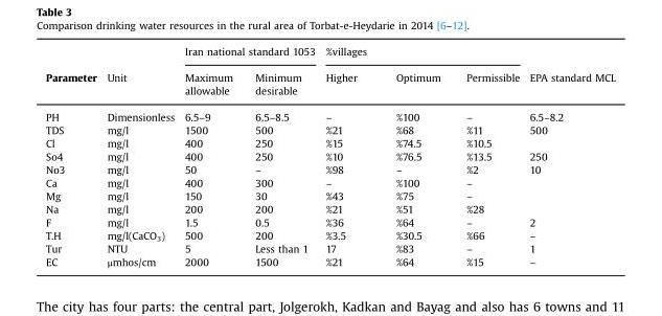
<table><thead><tr><td rowspan="2">Parameter</td><td rowspan="2">Unit</td><td colspan="2">Iran national standard 1053</td><td colspan="3">%villages</td><td rowspan="2">EPA standard MCL</td></tr><tr><td>Maximum allowable</td><td>Minimum desirable</td><td>Higher</td><td>Optimum</td><td>Permissible</td></tr></thead><tbody><tr><td>PH</td><td>Dimensionless</td><td>6.5–9</td><td>6.5–8.5</td><td>–</td><td>%100</td><td>–</td><td>6.5–8.2</td></tr><tr><td>TDS</td><td>mg/l</td><td>1500</td><td>500</td><td>%21</td><td>%68</td><td>%11</td><td>500</td></tr><tr><td>Cl</td><td>mg/l</td><td>400</td><td>250</td><td>%15</td><td>%74.5</td><td>%10.5</td><td></td></tr><tr><td>So4</td><td>mg/l</td><td>400</td><td>250</td><td>%10</td><td>%76.5</td><td>%13.5</td><td>250</td></tr><tr><td>No3</td><td>mg/l</td><td>50</td><td>–</td><td>%98</td><td>–</td><td>%2</td><td>10</td></tr><tr><td>Ca</td><td>mg/l</td><td>400</td><td>300</td><td>–</td><td>%100</td><td>–</td><td></td></tr><tr><td>Mg</td><td>mg/l</td><td>150</td><td>30</td><td>%43</td><td>%75</td><td>–</td><td></td></tr><tr><td>Na</td><td>mg/l</td><td>200</td><td>200</td><td>%21</td><td>%51</td><td>%28</td><td></td></tr><tr><td>F</td><td>mg/l</td><td>1.5</td><td>0.5</td><td>%36</td><td>%64</td><td>–</td><td>2</td></tr><tr><td>T.H</td><td>mg/l(CaCO<sub>3</sub>)</td><td>500</td><td>200</td><td>%3.5</td><td>%30.5</td><td>%66</td><td>–</td></tr><tr><td>Tur</td><td>NTU</td><td>5</td><td>Less than 1</td><td>17</td><td>%83</td><td>–</td><td>1</td></tr><tr><td>EC</td><td>μmhos/cm</td><td>2000</td><td>1500</td><td>%21</td><td>%64</td><td>%15</td><td>–</td></tr></tbody></table>